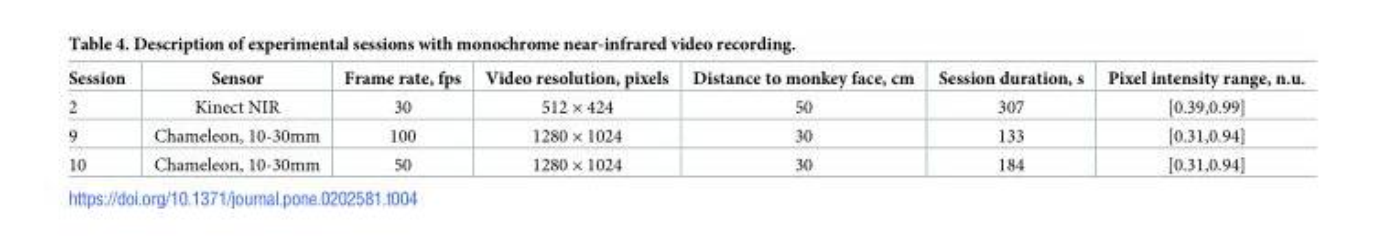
<table><thead><tr><td>Session</td><td>Sensor</td><td>Frame rate, fps</td><td>Video resolution, pixels</td><td>Distance to monkey face, cm</td><td>Session duration, s</td><td>Pixel intensity range, n.u.</td></tr></thead><tbody><tr><td>2</td><td>Kinect NIR</td><td>30</td><td>512 × 424</td><td>50</td><td>307</td><td>[0.39,0.99]</td></tr><tr><td>9</td><td>Chameleon, 10-30mm</td><td>100</td><td>1280 × 1024</td><td>30</td><td>133</td><td>[0.31,0.94]</td></tr><tr><td>10</td><td>Chameleon, 10-30mm</td><td>50</td><td>1280 × 1024</td><td>30</td><td>184</td><td>[0.31,0.94]</td></tr></tbody></table>